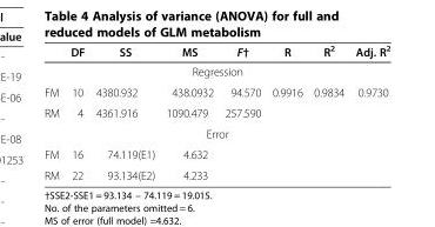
<table><thead><tr><td></td><td>DF</td><td>SS</td><td>MS</td><td>F†</td><td>R</td><td>R<sup>2</sup></td><td>Adj. R<sup>2</sup></td></tr></thead><tbody><tr><td colspan="8">Regression</td></tr><tr><td>FM</td><td>10</td><td>4380.932</td><td>438.0932</td><td>94.570</td><td>0.9916</td><td>0.9834</td><td>0.9730</td></tr><tr><td>RM</td><td>4</td><td>4361.916</td><td>1090.479</td><td>257.590</td><td></td><td></td><td></td></tr><tr><td colspan="8">Error</td></tr><tr><td>FM</td><td>16</td><td>74.119(E1)</td><td>4.632</td><td></td><td></td><td></td><td></td></tr><tr><td>RM</td><td>22</td><td>93.134(E2)</td><td>4.233</td><td></td><td></td><td></td><td></td></tr></tbody></table>